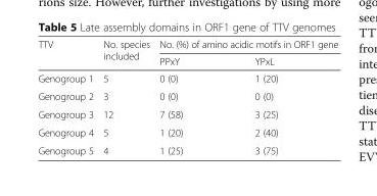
<table><thead><tr><td rowspan="2">TTV</td><td rowspan="2">No. species included</td><td colspan="2">No. (%) of amino acidic motifs in ORF1 gene</td></tr><tr><td>PPxY</td><td>YPxL</td></tr></thead><tbody><tr><td>Genogroup 1</td><td>5</td><td>0 (0)</td><td>1 (20)</td></tr><tr><td>Genogroup 2</td><td>3</td><td>0 (0)</td><td>0 (0)</td></tr><tr><td>Genogroup 3</td><td>12</td><td>7 (58)</td><td>3 (25)</td></tr><tr><td>Genogroup 4</td><td>5</td><td>1 (20)</td><td>2 (40)</td></tr><tr><td>Genogroup 5</td><td>4</td><td>1 (25)</td><td>3 (75)</td></tr></tbody></table>